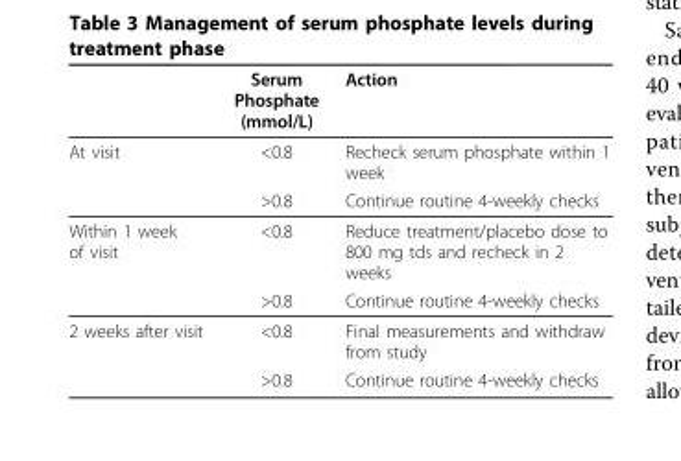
<table><thead><tr><td></td><td>Serum Phosphate (mmol/L)</td><td>Action</td></tr></thead><tbody><tr><td rowspan="2">At visit</td><td>&lt;0.8</td><td>Recheck serum phosphate within 1 week</td></tr><tr><td>&gt;0.8</td><td>Continue routine 4-weekly checks</td></tr><tr><td rowspan="2">Within 1 week of visit</td><td>&lt;0.8</td><td>Reduce treatment/placebo dose to 800 mg tds and recheck in 2 weeks</td></tr><tr><td>&gt;0.8</td><td>Continue routine 4-weekly checks</td></tr><tr><td rowspan="2">2 weeks after visit</td><td>&lt;0.8</td><td>Final measurements and withdraw from study</td></tr><tr><td>&gt;0.8</td><td>Continue routine 4-weekly checks</td></tr></tbody></table>